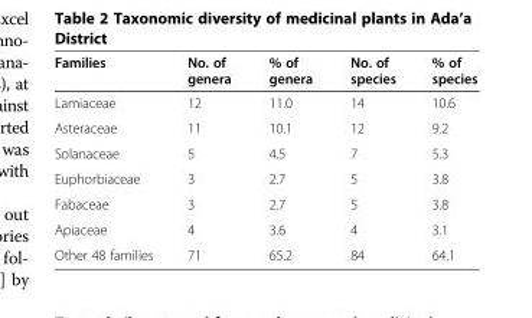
<table><thead><tr><td>Families</td><td>No. of genera</td><td>% of genera</td><td>No. of species</td><td>% of species</td></tr></thead><tbody><tr><td>Lamiaceae</td><td>12</td><td>11.0</td><td>14</td><td>10.6</td></tr><tr><td>Asteraceae</td><td>11</td><td>10.1</td><td>12</td><td>9.2</td></tr><tr><td>Solanaceae</td><td>5</td><td>4.5</td><td>7</td><td>5.3</td></tr><tr><td>Euphorbiaceae</td><td>3</td><td>2.7</td><td>5</td><td>3.8</td></tr><tr><td>Fabaceae</td><td>3</td><td>2.7</td><td>5</td><td>3.8</td></tr><tr><td>Apiaceae</td><td>4</td><td>3.6</td><td>4</td><td>3.1</td></tr><tr><td>Other 48 families</td><td>71</td><td>65.2</td><td>84</td><td>64.1</td></tr></tbody></table>